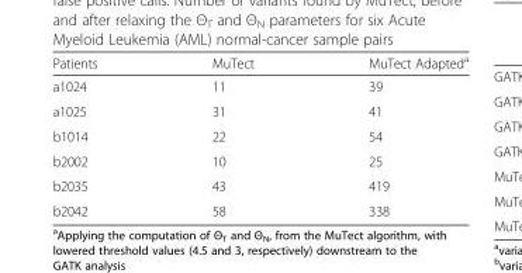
<table><thead><tr><td>Patients</td><td>MuTect</td><td>MuTect Adapted<sup>a</sup></td></tr></thead><tbody><tr><td>a1024</td><td>11</td><td>39</td></tr><tr><td>a1025</td><td>31</td><td>41</td></tr><tr><td>b1014</td><td>22</td><td>54</td></tr><tr><td>b2002</td><td>10</td><td>25</td></tr><tr><td>b2035</td><td>43</td><td>419</td></tr><tr><td>b2042</td><td>58</td><td>338</td></tr></tbody></table>